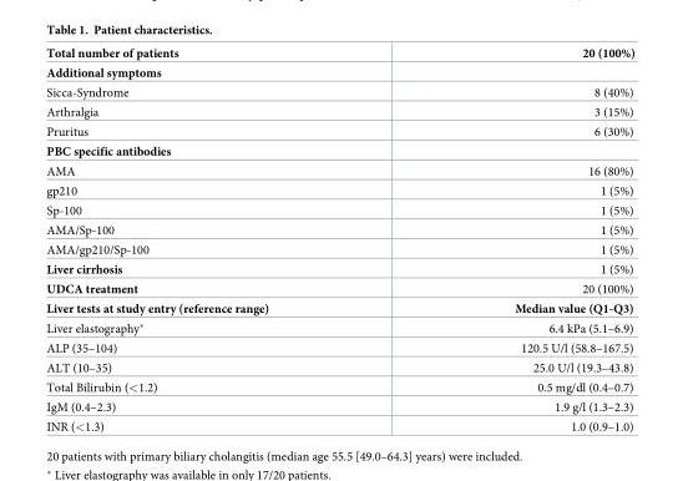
<table><thead><tr><td>Total number of patients</td><td>20 (100%)</td></tr></thead><tbody><tr><td colspan="2">Additional symptoms</td></tr><tr><td>Sicca-Syndrome</td><td>8 (40%)</td></tr><tr><td>Arthralgia</td><td>3 (15%)</td></tr><tr><td>Pruritus</td><td>6 (30%)</td></tr><tr><td colspan="2">PBC specific antibodies</td></tr><tr><td>AMA</td><td>16 (80%)</td></tr><tr><td>gp210</td><td>1 (5%)</td></tr><tr><td>Sp-100</td><td>1 (5%)</td></tr><tr><td>AMA/Sp-100</td><td>1 (5%)</td></tr><tr><td>AMA/gp210/Sp-100</td><td>1 (5%)</td></tr><tr><td>Liver cirrhosis</td><td>1 (5%)</td></tr><tr><td>UDCA treatment</td><td>20 (100%)</td></tr><tr><td>Liver tests at study entry (reference range)</td><td>Median value (Q1-Q3)</td></tr><tr><td>Liver elastography*</td><td>6.4 kPa (5.1–6.9)</td></tr><tr><td>ALP (35–104)</td><td>120.5 U/l (58.8–167.5)</td></tr><tr><td>ALT (10–35)</td><td>25.0 U/l (19.3–43.8)</td></tr><tr><td>Total Bilirubin (&lt;1.2)</td><td>0.5 mg/dl (0.4–0.7)</td></tr><tr><td>IgM (0.4–2.3)</td><td>1.9 g/l (1.3–2.3)</td></tr><tr><td>INR (&lt;1.3)</td><td>1.0 (0.9–1.0)</td></tr></tbody></table>